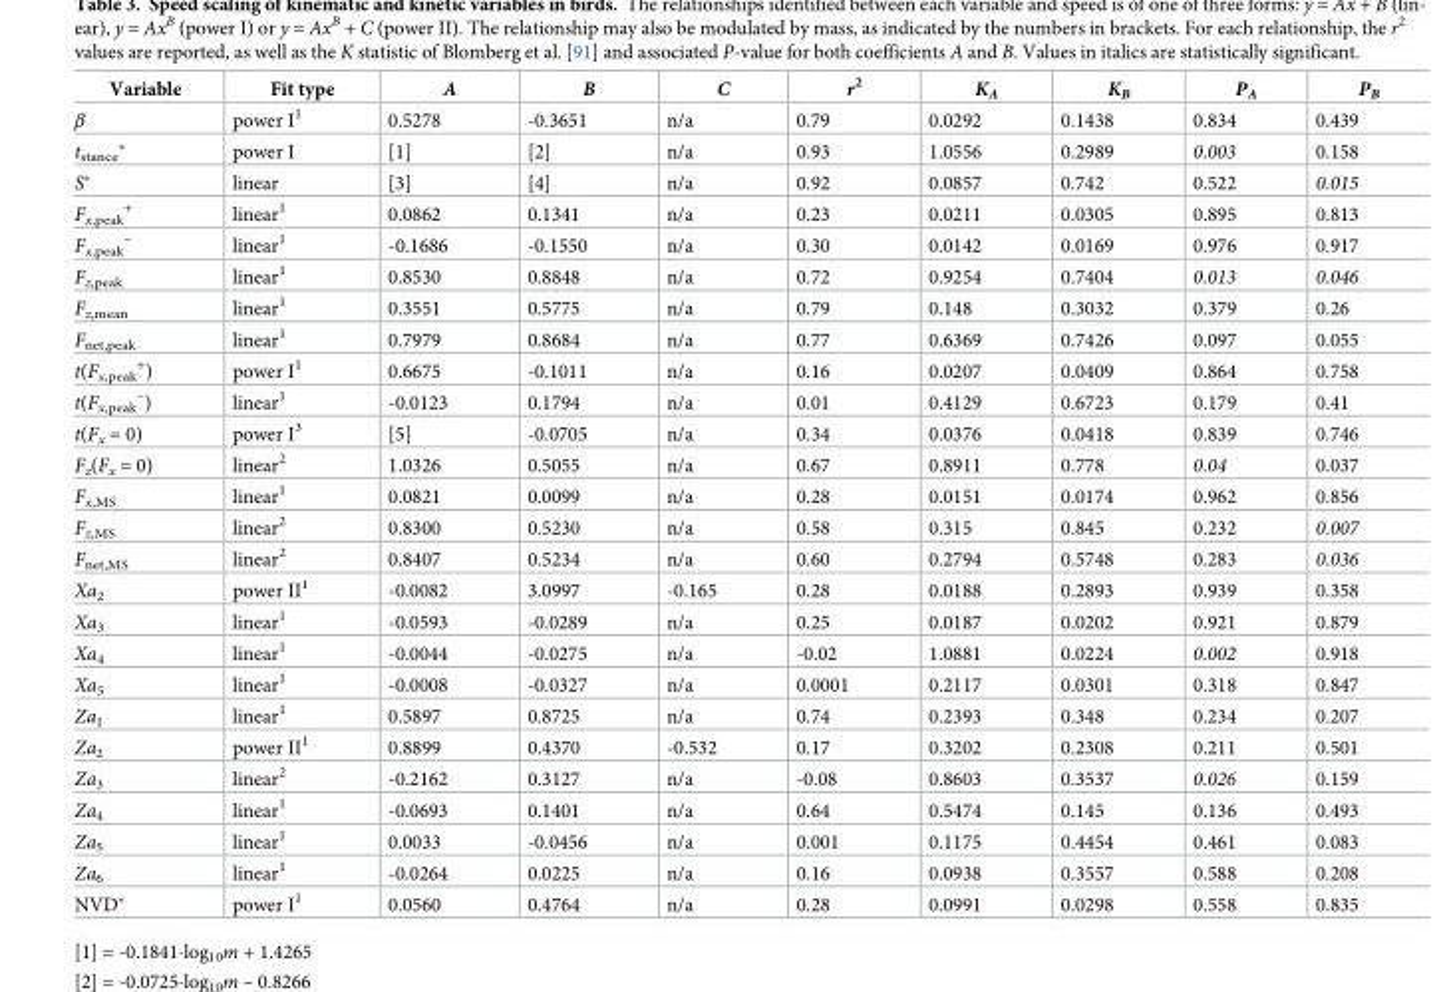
<table><thead><tr><td>Variable</td><td>Fit type</td><td>A</td><td>B</td><td>C</td><td>r<sup>2</sup></td><td>K<sub>A</sub></td><td>K<sub>B</sub></td><td>P<sub>A</sub></td><td>P<sub>B</sub></td></tr></thead><tbody><tr><td>β</td><td>power I<sup>1</sup></td><td>0.5278</td><td>-0.3651</td><td>n/a</td><td>0.79</td><td>0.0292</td><td>0.1438</td><td>0.834</td><td>0.439</td></tr><tr><td>t<sub>stance</sub>*</td><td>power I</td><td>[1]</td><td>[2]</td><td>n/a</td><td>0.93</td><td>1.0556</td><td>0.2989</td><td>0.003</td><td>0.158</td></tr><tr><td>S*</td><td>linear</td><td>[3]</td><td>[4]</td><td>n/a</td><td>0.92</td><td>0.0857</td><td>0.742</td><td>0.522</td><td>0.015</td></tr><tr><td>F<sub>x,peak</sub> <sup>+</sup></td><td>linear<sup>1</sup></td><td>0.0862</td><td>0.1341</td><td>n/a</td><td>0.23</td><td>0.0211</td><td>0.0305</td><td>0.895</td><td>0.813</td></tr><tr><td>F<sub>x,peak</sub> <sup>–</sup></td><td>linear<sup>1</sup></td><td>-0.1686</td><td>-0.1550</td><td>n/a</td><td>0.30</td><td>0.0142</td><td>0.0169</td><td>0.976</td><td>0.917</td></tr><tr><td>F<sub>z,peak</sub></td><td>linear<sup>1</sup></td><td>0.8530</td><td>0.8848</td><td>n/a</td><td>0.72</td><td>0.9254</td><td>0.7404</td><td>0.013</td><td>0.046</td></tr><tr><td>F<sub>z,mean</sub></td><td>linear<sup>1</sup></td><td>0.3551</td><td>0.5775</td><td>n/a</td><td>0.79</td><td>0.148</td><td>0.3032</td><td>0.379</td><td>0.26</td></tr><tr><td>F<sub>net,peak</sub></td><td>linear<sup>1</sup></td><td>0.7979</td><td>0.8684</td><td>n/a</td><td>0.77</td><td>0.6369</td><td>0.7426</td><td>0.097</td><td>0.055</td></tr><tr><td>t(F<sub>x,peak</sub> <sup>+</sup>)</td><td>power I<sup>1</sup></td><td>0.6675</td><td>-0.1011</td><td>n/a</td><td>0.16</td><td>0.0207</td><td>0.0409</td><td>0.864</td><td>0.758</td></tr><tr><td>t(F<sub>x,peak</sub> <sup>–</sup>)</td><td>linear<sup>1</sup></td><td>-0.0123</td><td>0.1794</td><td>n/a</td><td>0.01</td><td>0.4129</td><td>0.6723</td><td>0.179</td><td>0.41</td></tr><tr><td>t(F<sub>x</sub> = 0)</td><td>power I<sup>3</sup></td><td>[5]</td><td>-0.0705</td><td>n/a</td><td>0.34</td><td>0.0376</td><td>0.0418</td><td>0.839</td><td>0.746</td></tr><tr><td>F<sub>z</sub>(F<sub>x</sub> = 0)</td><td>linear<sup>2</sup></td><td>1.0326</td><td>0.5055</td><td>n/a</td><td>0.67</td><td>0.8911</td><td>0.778</td><td>0.04</td><td>0.037</td></tr><tr><td>F<sub>x,MS</sub></td><td>linear<sup>1</sup></td><td>0.0821</td><td>0.0099</td><td>n/a</td><td>0.28</td><td>0.0151</td><td>0.0174</td><td>0.962</td><td>0.856</td></tr><tr><td>F<sub>z,MS</sub></td><td>linear<sup>2</sup></td><td>0.8300</td><td>0.5230</td><td>n/a</td><td>0.58</td><td>0.315</td><td>0.845</td><td>0.232</td><td>0.007</td></tr><tr><td>F<sub>net,MS</sub></td><td>linear<sup>2</sup></td><td>0.8407</td><td>0.5234</td><td>n/a</td><td>0.60</td><td>0.2794</td><td>0.5748</td><td>0.283</td><td>0.036</td></tr><tr><td>Xa<sub>2</sub></td><td>power II<sup>1</sup></td><td>-0.0082</td><td>3.0997</td><td>-0.165</td><td>0.28</td><td>0.0188</td><td>0.2893</td><td>0.939</td><td>0.358</td></tr><tr><td>Xa<sub>3</sub></td><td>linear<sup>1</sup></td><td>-0.0593</td><td>-0.0289</td><td>n/a</td><td>0.25</td><td>0.0187</td><td>0.0202</td><td>0.921</td><td>0.879</td></tr><tr><td>Xa<sub>4</sub></td><td>linear<sup>1</sup></td><td>-0.0044</td><td>-0.0275</td><td>n/a</td><td>-0.02</td><td>1.0881</td><td>0.0224</td><td>0.002</td><td>0.918</td></tr><tr><td>Xa<sub>5</sub></td><td>linear<sup>1</sup></td><td>-0.0008</td><td>-0.0327</td><td>n/a</td><td>0.0001</td><td>0.2117</td><td>0.0301</td><td>0.318</td><td>0.847</td></tr><tr><td>Za<sub>1</sub></td><td>linear<sup>1</sup></td><td>0.5897</td><td>0.8725</td><td>n/a</td><td>0.74</td><td>0.2393</td><td>0.348</td><td>0.234</td><td>0.207</td></tr><tr><td>Za<sub>2</sub></td><td>power II<sup>1</sup></td><td>0.8899</td><td>0.4370</td><td>-0.532</td><td>0.17</td><td>0.3202</td><td>0.2308</td><td>0.211</td><td>0.501</td></tr><tr><td>Za<sub>3</sub></td><td>linear<sup>2</sup></td><td>-0.2162</td><td>0.3127</td><td>n/a</td><td>-0.08</td><td>0.8603</td><td>0.3537</td><td>0.026</td><td>0.159</td></tr><tr><td>Za<sub>4</sub></td><td>linear<sup>1</sup></td><td>-0.0693</td><td>0.1401</td><td>n/a</td><td>0.64</td><td>0.5474</td><td>0.145</td><td>0.136</td><td>0.493</td></tr><tr><td>Za<sub>5</sub></td><td>linear<sup>1</sup></td><td>0.0033</td><td>-0.0456</td><td>n/a</td><td>0.001</td><td>0.1175</td><td>0.4454</td><td>0.461</td><td>0.083</td></tr><tr><td>Za<sub>6</sub></td><td>linear<sup>1</sup></td><td>-0.0264</td><td>0.0225</td><td>n/a</td><td>0.16</td><td>0.0938</td><td>0.3557</td><td>0.588</td><td>0.208</td></tr><tr><td>NVD*</td><td>power I<sup>1</sup></td><td>0.0560</td><td>0.4764</td><td>n/a</td><td>0.28</td><td>0.0991</td><td>0.0298</td><td>0.558</td><td>0.835</td></tr></tbody></table>